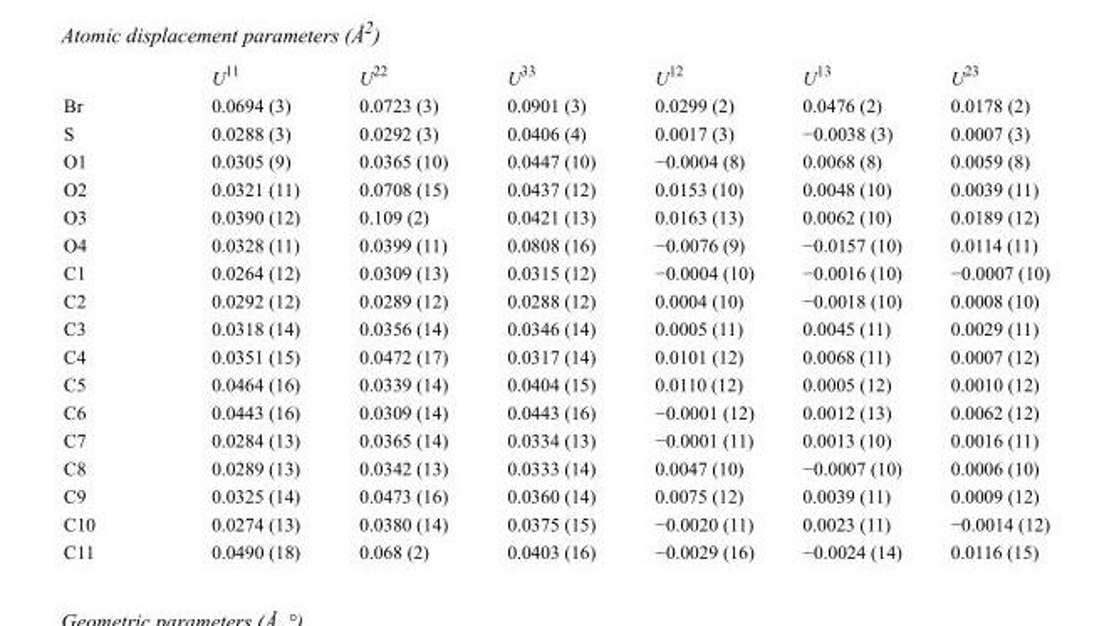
<table><thead><tr><td></td><td>U<sup>11</sup></td><td>U<sup>22</sup></td><td>U<sup>33</sup></td><td>U<sup>12</sup></td><td>U<sup>13</sup></td><td>U<sup>23</sup></td></tr></thead><tbody><tr><td>Br</td><td>0.0694 (3)</td><td>0.0723 (3)</td><td>0.0901 (3)</td><td>0.0299 (2)</td><td>0.0476 (2)</td><td>0.0178 (2)</td></tr><tr><td>S</td><td>0.0288 (3)</td><td>0.0292 (3)</td><td>0.0406 (4)</td><td>0.0017 (3)</td><td>−0.0038 (3)</td><td>0.0007 (3)</td></tr><tr><td>O1</td><td>0.0305 (9)</td><td>0.0365 (10)</td><td>0.0447 (10)</td><td>−0.0004 (8)</td><td>0.0068 (8)</td><td>0.0059 (8)</td></tr><tr><td>O2</td><td>0.0321 (11)</td><td>0.0708 (15)</td><td>0.0437 (12)</td><td>0.0153 (10)</td><td>0.0048 (10)</td><td>0.0039 (11)</td></tr><tr><td>O3</td><td>0.0390 (12)</td><td>0.109 (2)</td><td>0.0421 (13)</td><td>0.0163 (13)</td><td>0.0062 (10)</td><td>0.0189 (12)</td></tr><tr><td>O4</td><td>0.0328 (11)</td><td>0.0399 (11)</td><td>0.0808 (16)</td><td>−0.0076 (9)</td><td>−0.0157 (10)</td><td>0.0114 (11)</td></tr><tr><td>C1</td><td>0.0264 (12)</td><td>0.0309 (13)</td><td>0.0315 (12)</td><td>−0.0004 (10)</td><td>−0.0016 (10)</td><td>−0.0007 (10)</td></tr><tr><td>C2</td><td>0.0292 (12)</td><td>0.0289 (12)</td><td>0.0288 (12)</td><td>0.0004 (10)</td><td>−0.0018 (10)</td><td>0.0008 (10)</td></tr><tr><td>C3</td><td>0.0318 (14)</td><td>0.0356 (14)</td><td>0.0346 (14)</td><td>0.0005 (11)</td><td>0.0045 (11)</td><td>0.0029 (11)</td></tr><tr><td>C4</td><td>0.0351 (15)</td><td>0.0472 (17)</td><td>0.0317 (14)</td><td>0.0101 (12)</td><td>0.0068 (11)</td><td>0.0007 (12)</td></tr><tr><td>C5</td><td>0.0464 (16)</td><td>0.0339 (14)</td><td>0.0404 (15)</td><td>0.0110 (12)</td><td>0.0005 (12)</td><td>0.0010 (12)</td></tr><tr><td>C6</td><td>0.0443 (16)</td><td>0.0309 (14)</td><td>0.0443 (16)</td><td>−0.0001 (12)</td><td>0.0012 (13)</td><td>0.0062 (12)</td></tr><tr><td>C7</td><td>0.0284 (13)</td><td>0.0365 (14)</td><td>0.0334 (13)</td><td>−0.0001 (11)</td><td>0.0013 (10)</td><td>0.0016 (11)</td></tr><tr><td>C8</td><td>0.0289 (13)</td><td>0.0342 (13)</td><td>0.0333 (14)</td><td>0.0047 (10)</td><td>−0.0007 (10)</td><td>0.0006 (10)</td></tr><tr><td>C9</td><td>0.0325 (14)</td><td>0.0473 (16)</td><td>0.0360 (14)</td><td>0.0075 (12)</td><td>0.0039 (11)</td><td>0.0009 (12)</td></tr><tr><td>C10</td><td>0.0274 (13)</td><td>0.0380 (14)</td><td>0.0375 (15)</td><td>−0.0020 (11)</td><td>0.0023 (11)</td><td>−0.0014 (12)</td></tr><tr><td>C11</td><td>0.0490 (18)</td><td>0.068 (2)</td><td>0.0403 (16)</td><td>−0.0029 (16)</td><td>−0.0024 (14)</td><td>0.0116 (15)</td></tr></tbody></table>